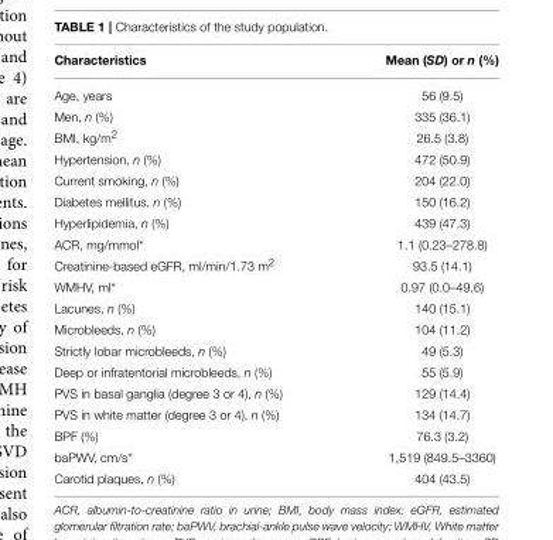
<table><thead><tr><td>Characteristics</td><td>Mean (SD) or n (%)</td></tr></thead><tbody><tr><td>Age, years</td><td>56 (9.5)</td></tr><tr><td>Men, n (%)</td><td>335 (36.1)</td></tr><tr><td>BMI, kg/m<sup>2</sup></td><td>26.5 (3.8)</td></tr><tr><td>Hypertension, n (%)</td><td>472 (50.9)</td></tr><tr><td>Current smoking, n (%)</td><td>204 (22.0)</td></tr><tr><td>Diabetes mellitus, n (%)</td><td>150 (16.2)</td></tr><tr><td>Hyperlipidemia, n (%)</td><td>439 (47.3)</td></tr><tr><td>ACR, mg/mmol*</td><td>1.1 (0.23–278.8)</td></tr><tr><td>Creatinine-based eGFR, ml/min/1.73 m<sup>2</sup></td><td>93.5 (14.1)</td></tr><tr><td>WMHV, ml*</td><td>0.97 (0.0–49.6)</td></tr><tr><td>Lacunes, n (%)</td><td>140 (15.1)</td></tr><tr><td>Microbleeds, n (%)</td><td>104 (11.2)</td></tr><tr><td>Strictly lobar microbleeds, n (%)</td><td>49 (5.3)</td></tr><tr><td>Deep or infratentorial microbleeds, n (%)</td><td>55 (5.9)</td></tr><tr><td>PVS in basal ganglia (degree 3 or 4), n (%)</td><td>129 (14.4)</td></tr><tr><td>PVS in white matter (degree 3 or 4), n (%)</td><td>134 (14.7)</td></tr><tr><td>BPF (%)</td><td>76.3 (3.2)</td></tr><tr><td>baPWV, cm/s*</td><td>1,519 (849.5–3360)</td></tr><tr><td>Carotid plaques, n (%)</td><td>404 (43.5)</td></tr></tbody></table>